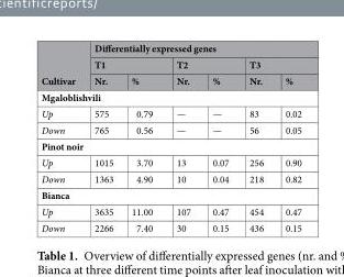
<table><thead><tr><td rowspan="3">Cultivar</td><td colspan="6">Differentially expressed genes</td></tr><tr><td colspan="2">T1</td><td colspan="2">T2</td><td colspan="2">T3</td></tr><tr><td>Nr.</td><td>%</td><td>Nr.</td><td>%</td><td>Nr.</td><td>%</td></tr></thead><tbody><tr><td colspan="7">Mgaloblishvili</td></tr><tr><td>Up</td><td>575</td><td>0.79</td><td>—</td><td>—</td><td>83</td><td>0.02</td></tr><tr><td>Down</td><td>765</td><td>0.56</td><td>—</td><td>—</td><td>56</td><td>0.05</td></tr><tr><td colspan="7">Pinot noir</td></tr><tr><td>Up</td><td>1015</td><td>3.70</td><td>13</td><td>0.07</td><td>256</td><td>0.90</td></tr><tr><td>Down</td><td>1363</td><td>4.90</td><td>10</td><td>0.04</td><td>218</td><td>0.82</td></tr><tr><td colspan="7">Bianca</td></tr><tr><td>Up</td><td>3635</td><td>11.00</td><td>107</td><td>0.47</td><td>454</td><td>0.47</td></tr><tr><td>Down</td><td>2266</td><td>7.40</td><td>30</td><td>0.15</td><td>436</td><td>0.15</td></tr></tbody></table>